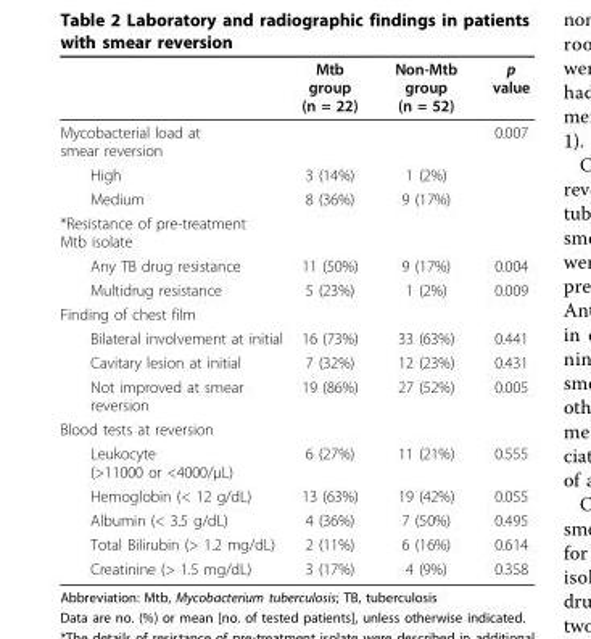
<table><thead><tr><td></td><td>Mtb group (n = 22)</td><td>Non-Mtb group (n = 52)</td><td>p value</td></tr></thead><tbody><tr><td>Mycobacterial load at smear reversion</td><td></td><td></td><td>0.007</td></tr><tr><td>High</td><td>3 (14%)</td><td>1 (2%)</td><td></td></tr><tr><td>Medium</td><td>8 (36%)</td><td>9 (17%)</td><td></td></tr><tr><td colspan="4">*Resistance of pre-treatment Mtb isolate</td></tr><tr><td>Any TB drug resistance</td><td>11 (50%)</td><td>9 (17%)</td><td>0.004</td></tr><tr><td>Multidrug resistance</td><td>5 (23%)</td><td>1 (2%)</td><td>0.009</td></tr><tr><td colspan="4">Finding of chest film</td></tr><tr><td>Bilateral involvement at initial</td><td>16 (73%)</td><td>33 (63%)</td><td>0.441</td></tr><tr><td>Cavitary lesion at initial</td><td>7 (32%)</td><td>12 (23%)</td><td>0.431</td></tr><tr><td>Not improved at smear reversion</td><td>19 (86%)</td><td>27 (52%)</td><td>0.005</td></tr><tr><td colspan="4">Blood tests at reversion</td></tr><tr><td>Leukocyte (&gt;11000 or &lt;4000/μL)</td><td>6 (27%)</td><td>11 (21%)</td><td>0.555</td></tr><tr><td>Hemoglobin (&lt; 12 g/dL)</td><td>13 (63%)</td><td>19 (42%)</td><td>0.055</td></tr><tr><td>Albumin (&lt; 3.5 g/dL)</td><td>4 (36%)</td><td>7 (50%)</td><td>0.495</td></tr><tr><td>Total Bilirubin (&gt; 1.2 mg/dL)</td><td>2 (11%)</td><td>6 (16%)</td><td>0.614</td></tr><tr><td>Creatinine (&gt; 1.5 mg/dL)</td><td>3 (17%)</td><td>4 (9%)</td><td>0.358</td></tr></tbody></table>